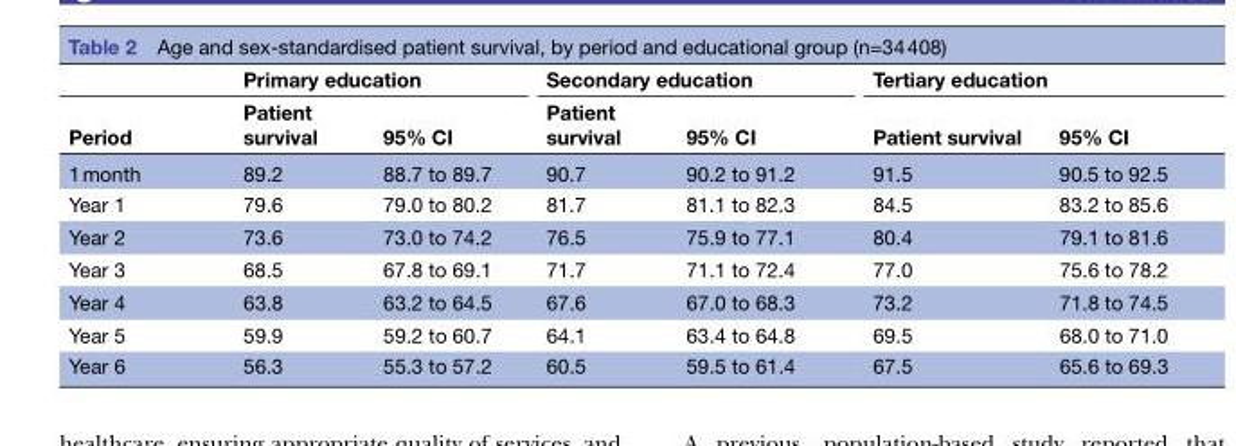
<table><thead><tr><td rowspan="2">Period</td><td colspan="2">Primary education</td><td colspan="2">Secondary education</td><td colspan="2">Tertiary education</td></tr><tr><td>Patient survival</td><td>95% CI</td><td>Patient survival</td><td>95% CI</td><td>Patient survival</td><td>95% CI</td></tr></thead><tbody><tr><td>1 month</td><td>89.2</td><td>88.7 to 89.7</td><td>90.7</td><td>90.2 to 91.2</td><td>91.5</td><td>90.5 to 92.5</td></tr><tr><td>Year 1</td><td>79.6</td><td>79.0 to 80.2</td><td>81.7</td><td>81.1 to 82.3</td><td>84.5</td><td>83.2 to 85.6</td></tr><tr><td>Year 2</td><td>73.6</td><td>73.0 to 74.2</td><td>76.5</td><td>75.9 to 77.1</td><td>80.4</td><td>79.1 to 81.6</td></tr><tr><td>Year 3</td><td>68.5</td><td>67.8 to 69.1</td><td>71.7</td><td>71.1 to 72.4</td><td>77.0</td><td>75.6 to 78.2</td></tr><tr><td>Year 4</td><td>63.8</td><td>63.2 to 64.5</td><td>67.6</td><td>67.0 to 68.3</td><td>73.2</td><td>71.8 to 74.5</td></tr><tr><td>Year 5</td><td>59.9</td><td>59.2 to 60.7</td><td>64.1</td><td>63.4 to 64.8</td><td>69.5</td><td>68.0 to 71.0</td></tr><tr><td>Year 6</td><td>56.3</td><td>55.3 to 57.2</td><td>60.5</td><td>59.5 to 61.4</td><td>67.5</td><td>65.6 to 69.3</td></tr></tbody></table>